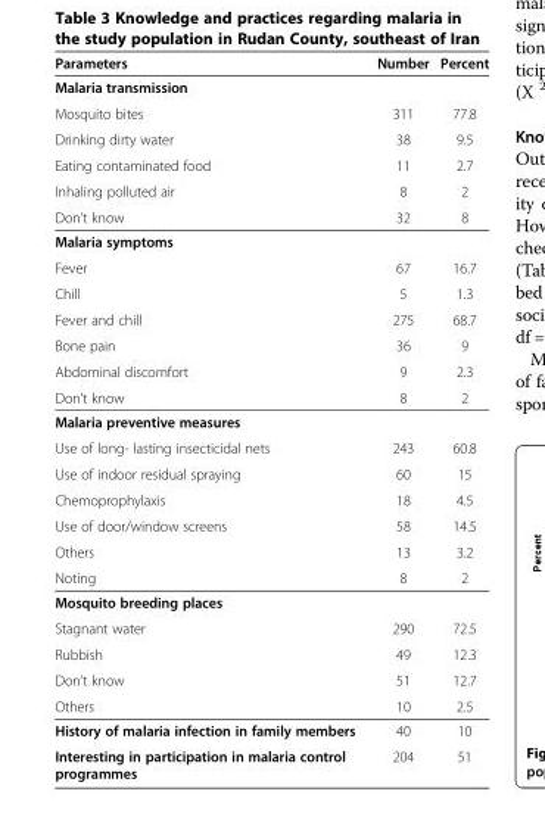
<table><thead><tr><td>Parameters</td><td>Number</td><td>Percent</td></tr></thead><tbody><tr><td colspan="3">Malaria transmission</td></tr><tr><td>Mosquito bites</td><td>311</td><td>77.8</td></tr><tr><td>Drinking dirty water</td><td>38</td><td>9.5</td></tr><tr><td>Eating contaminated food</td><td>11</td><td>2.7</td></tr><tr><td>Inhaling polluted air</td><td>8</td><td>2</td></tr><tr><td>Don’t know</td><td>32</td><td>8</td></tr><tr><td colspan="3">Malaria symptoms</td></tr><tr><td>Fever</td><td>67</td><td>16.7</td></tr><tr><td>Chill</td><td>5</td><td>1.3</td></tr><tr><td>Fever and chill</td><td>275</td><td>68.7</td></tr><tr><td>Bone pain</td><td>36</td><td>9</td></tr><tr><td>Abdominal discomfort</td><td>9</td><td>2.3</td></tr><tr><td>Don’t know</td><td>8</td><td>2</td></tr><tr><td colspan="3">Malaria preventive measures</td></tr><tr><td>Use of long- lasting insecticidal nets</td><td>243</td><td>60.8</td></tr><tr><td>Use of indoor residual spraying</td><td>60</td><td>15</td></tr><tr><td>Chemoprophylaxis</td><td>18</td><td>4.5</td></tr><tr><td>Use of door/window screens</td><td>58</td><td>14.5</td></tr><tr><td>Others</td><td>13</td><td>3.2</td></tr><tr><td>Noting</td><td>8</td><td>2</td></tr><tr><td colspan="3">Mosquito breeding places</td></tr><tr><td>Stagnant water</td><td>290</td><td>72.5</td></tr><tr><td>Rubbish</td><td>49</td><td>12.3</td></tr><tr><td>Don’t know</td><td>51</td><td>12.7</td></tr><tr><td>Others</td><td>10</td><td>2.5</td></tr><tr><td>History of malaria infection in family members</td><td>40</td><td>10</td></tr><tr><td>Interesting in participation in malaria control programmes</td><td>204</td><td>51</td></tr></tbody></table>